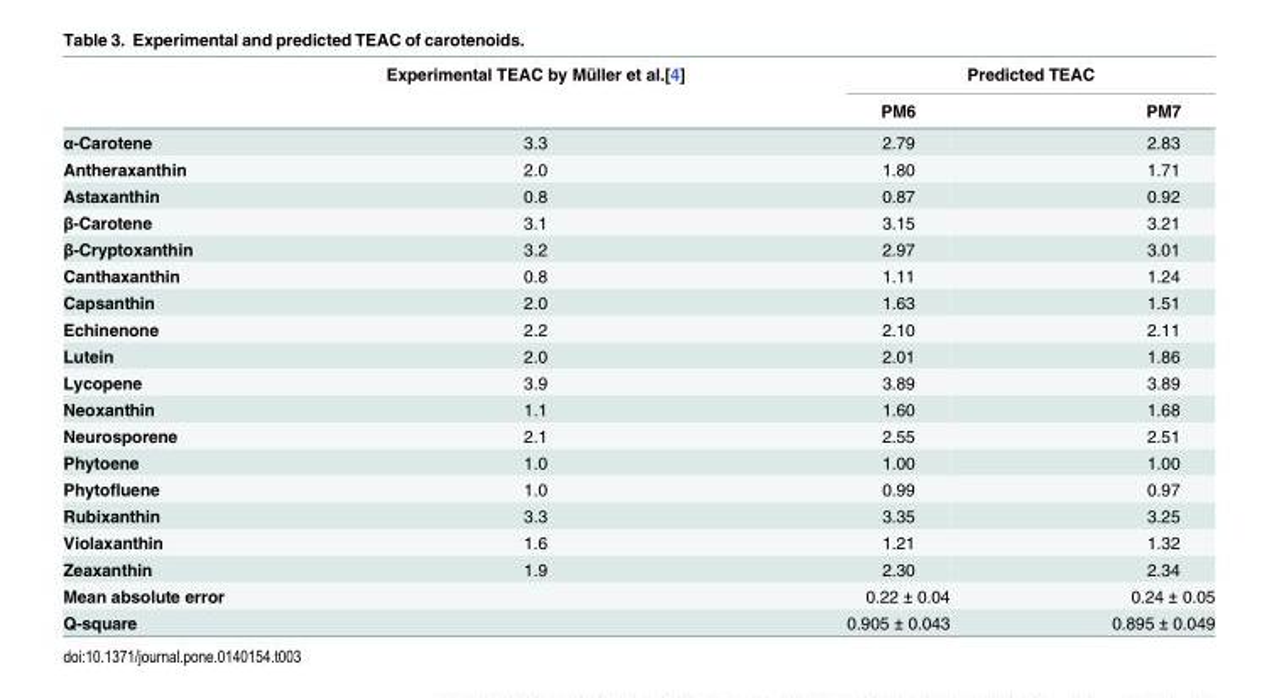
<table><thead><tr><td rowspan="2"></td><td rowspan="2">Experimental TEAC by Müller et al.[4]</td><td colspan="2">Predicted TEAC</td></tr><tr><td>PM6</td><td>PM7</td></tr></thead><tbody><tr><td>α-Carotene</td><td>3.3</td><td>2.79</td><td>2.83</td></tr><tr><td>Antheraxanthin</td><td>2.0</td><td>1.80</td><td>1.71</td></tr><tr><td>Astaxanthin</td><td>0.8</td><td>0.87</td><td>0.92</td></tr><tr><td>β-Carotene</td><td>3.1</td><td>3.15</td><td>3.21</td></tr><tr><td>β-Cryptoxanthin</td><td>3.2</td><td>2.97</td><td>3.01</td></tr><tr><td>Canthaxanthin</td><td>0.8</td><td>1.11</td><td>1.24</td></tr><tr><td>Capsanthin</td><td>2.0</td><td>1.63</td><td>1.51</td></tr><tr><td>Echinenone</td><td>2.2</td><td>2.10</td><td>2.11</td></tr><tr><td>Lutein</td><td>2.0</td><td>2.01</td><td>1.86</td></tr><tr><td>Lycopene</td><td>3.9</td><td>3.89</td><td>3.89</td></tr><tr><td>Neoxanthin</td><td>1.1</td><td>1.60</td><td>1.68</td></tr><tr><td>Neurosporene</td><td>2.1</td><td>2.55</td><td>2.51</td></tr><tr><td>Phytoene</td><td>1.0</td><td>1.00</td><td>1.00</td></tr><tr><td>Phytofluene</td><td>1.0</td><td>0.99</td><td>0.97</td></tr><tr><td>Rubixanthin</td><td>3.3</td><td>3.35</td><td>3.25</td></tr><tr><td>Violaxanthin</td><td>1.6</td><td>1.21</td><td>1.32</td></tr><tr><td>Zeaxanthin</td><td>1.9</td><td>2.30</td><td>2.34</td></tr><tr><td>Mean absolute error</td><td></td><td>0.22 ± 0.04</td><td>0.24 ± 0.05</td></tr><tr><td>Q-square</td><td></td><td>0.905 ± 0.043</td><td>0.895 ± 0.049</td></tr></tbody></table>